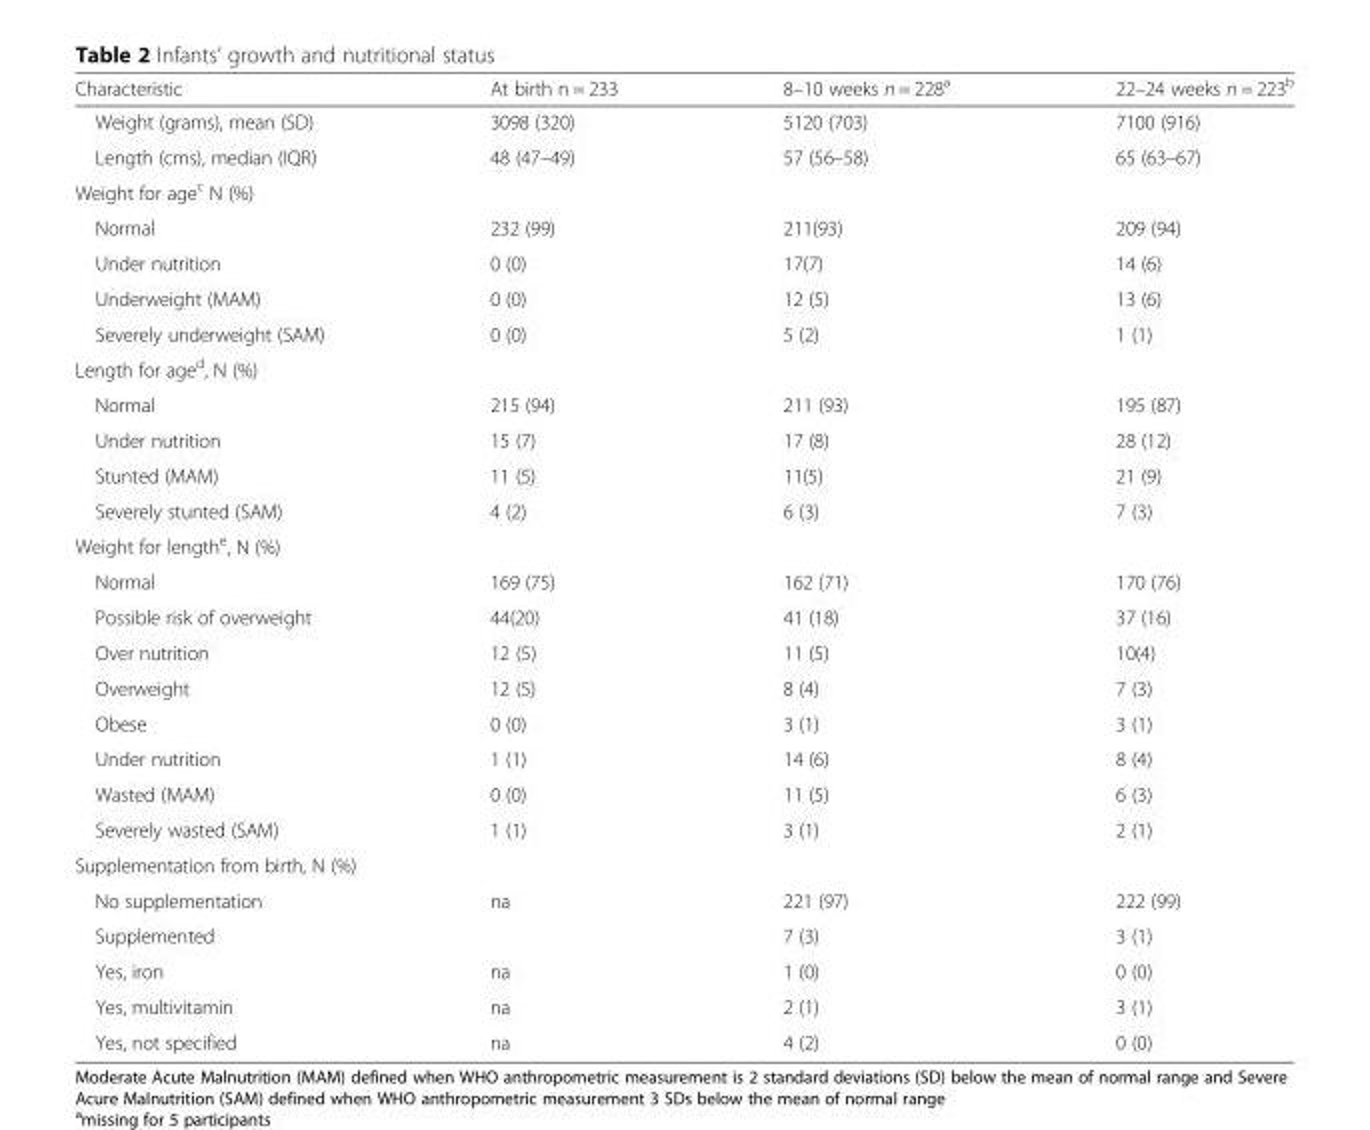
<table><thead><tr><td>Characteristic</td><td>At birth n = 233</td><td>8–10 weeks n = 228<sup>a</sup></td><td>22–24 weeks n = 223<sup>b</sup></td></tr></thead><tbody><tr><td>Weight (grams), mean (SD)</td><td>3098 (320)</td><td>5120 (703)</td><td>7100 (916)</td></tr><tr><td>Length (cms), median (IQR)</td><td>48 (47–49)</td><td>57 (56–58)</td><td>65 (63–67)</td></tr><tr><td colspan="4">Weight for age<sup>c</sup> N (%)</td></tr><tr><td>Normal</td><td>232 (99)</td><td>211(93)</td><td>209 (94)</td></tr><tr><td>Under nutrition</td><td>0 (0)</td><td>17(7)</td><td>14 (6)</td></tr><tr><td>Underweight (MAM)</td><td>0 (0)</td><td>12 (5)</td><td>13 (6)</td></tr><tr><td>Severely underweight (SAM)</td><td>0 (0)</td><td>5 (2)</td><td>1 (1)</td></tr><tr><td colspan="4">Length for age<sup>d</sup>, N (%)</td></tr><tr><td>Normal</td><td>215 (94)</td><td>211 (93)</td><td>195 (87)</td></tr><tr><td>Under nutrition</td><td>15 (7)</td><td>17 (8)</td><td>28 (12)</td></tr><tr><td>Stunted (MAM)</td><td>11 (5)</td><td>11(5)</td><td>21 (9)</td></tr><tr><td>Severely stunted (SAM)</td><td>4 (2)</td><td>6 (3)</td><td>7 (3)</td></tr><tr><td colspan="4">Weight for length<sup>e</sup>, N (%)</td></tr><tr><td>Normal</td><td>169 (75)</td><td>162 (71)</td><td>170 (76)</td></tr><tr><td>Possible risk of overweight</td><td>44(20)</td><td>41 (18)</td><td>37 (16)</td></tr><tr><td>Over nutrition</td><td>12 (5)</td><td>11 (5)</td><td>10(4)</td></tr><tr><td>Overweight</td><td>12 (5)</td><td>8 (4)</td><td>7 (3)</td></tr><tr><td>Obese</td><td>0 (0)</td><td>3 (1)</td><td>3 (1)</td></tr><tr><td>Under nutrition</td><td>1 (1)</td><td>14 (6)</td><td>8 (4)</td></tr><tr><td>Wasted (MAM)</td><td>0 (0)</td><td>11 (5)</td><td>6 (3)</td></tr><tr><td>Severely wasted (SAM)</td><td>1 (1)</td><td>3 (1)</td><td>2 (1)</td></tr><tr><td colspan="4">Supplementation from birth, N (%)</td></tr><tr><td>No supplementation</td><td>na</td><td>221 (97)</td><td>222 (99)</td></tr><tr><td>Supplemented</td><td></td><td>7 (3)</td><td>3 (1)</td></tr><tr><td>Yes, iron</td><td>na</td><td>1 (0)</td><td>0 (0)</td></tr><tr><td>Yes, multivitamin</td><td>na</td><td>2 (1)</td><td>3 (1)</td></tr><tr><td>Yes, not specified</td><td>na</td><td>4 (2)</td><td>0 (0)</td></tr></tbody></table>